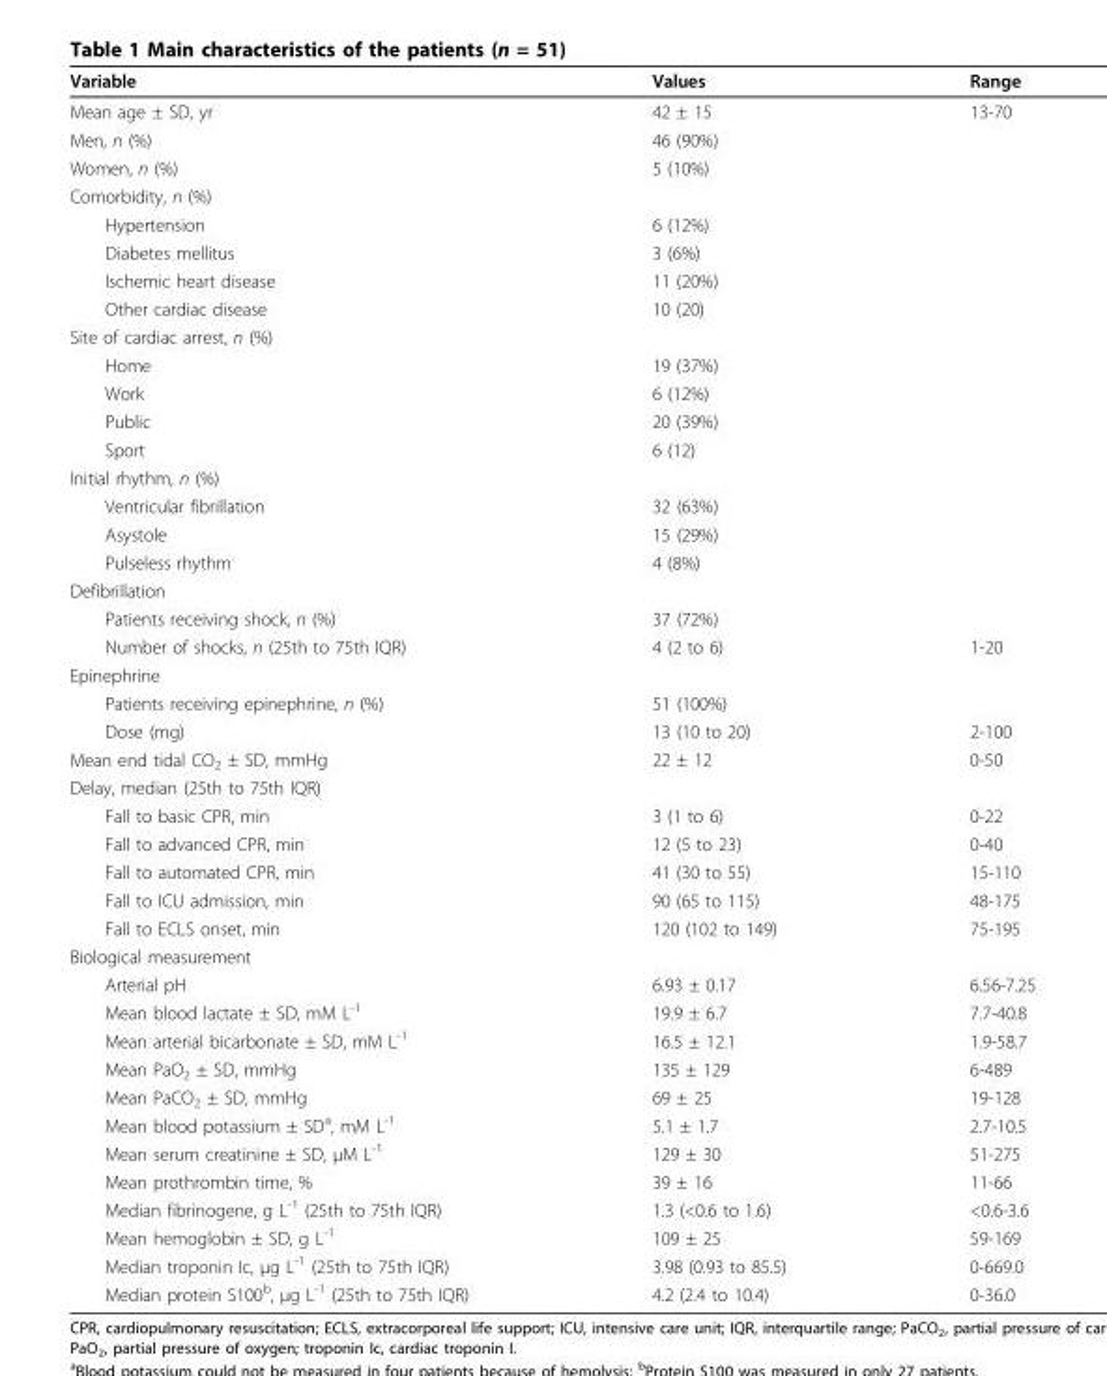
<table><thead><tr><td>Variable</td><td>Values</td><td>Range</td></tr></thead><tbody><tr><td>Mean age ± SD, yr</td><td>42 ± 15</td><td>13-70</td></tr><tr><td>Men, n (%)</td><td>46 (90%)</td><td></td></tr><tr><td>Women, n (%)</td><td>5 (10%)</td><td></td></tr><tr><td colspan="3">Comorbidity, n (%)</td></tr><tr><td>Hypertension</td><td>6 (12%)</td><td></td></tr><tr><td>Diabetes mellitus</td><td>3 (6%)</td><td></td></tr><tr><td>Ischemic heart disease</td><td>11 (20%)</td><td></td></tr><tr><td>Other cardiac disease</td><td>10 (20)</td><td></td></tr><tr><td colspan="3">Site of cardiac arrest, n (%)</td></tr><tr><td>Home</td><td>19 (37%)</td><td></td></tr><tr><td>Work</td><td>6 (12%)</td><td></td></tr><tr><td>Public</td><td>20 (39%)</td><td></td></tr><tr><td>Sport</td><td>6 (12)</td><td></td></tr><tr><td colspan="3">Initial rhythm, n (%)</td></tr><tr><td>Ventricular fibrillation</td><td>32 (63%)</td><td></td></tr><tr><td>Asystole</td><td>15 (29%)</td><td></td></tr><tr><td>Pulseless rhythm</td><td>4 (8%)</td><td></td></tr><tr><td colspan="3">Defibrillation</td></tr><tr><td>Patients receiving shock, n (%)</td><td>37 (72%)</td><td></td></tr><tr><td>Number of shocks, n (25th to 75th IQR)</td><td>4 (2 to 6)</td><td>1-20</td></tr><tr><td colspan="3">Epinephrine</td></tr><tr><td>Patients receiving epinephrine, n (%)</td><td>51 (100%)</td><td></td></tr><tr><td>Dose (mg)</td><td>13 (10 to 20)</td><td>2-100</td></tr><tr><td>Mean end tidal CO<sub>2</sub> ± SD, mmHg</td><td>22 ± 12</td><td>0-50</td></tr><tr><td colspan="3">Delay, median (25th to 75th IQR)</td></tr><tr><td>Fall to basic CPR, min</td><td>3 (1 to 6)</td><td>0-22</td></tr><tr><td>Fall to advanced CPR, min</td><td>12 (5 to 23)</td><td>0-40</td></tr><tr><td>Fall to automated CPR, min</td><td>41 (30 to 55)</td><td>15-110</td></tr><tr><td>Fall to ICU admission, min</td><td>90 (65 to 115)</td><td>48-175</td></tr><tr><td>Fall to ECLS onset, min</td><td>120 (102 to 149)</td><td>75-195</td></tr><tr><td colspan="3">Biological measurement</td></tr><tr><td>Arterial pH</td><td>6.93 ± 0.17</td><td>6.56-7.25</td></tr><tr><td>Mean blood lactate ± SD, mM L<sup>-1</sup></td><td>19.9 ± 6.7</td><td>7.7-40.8</td></tr><tr><td>Mean arterial bicarbonate ± SD, mM L<sup>-1</sup></td><td>16.5 ± 12.1</td><td>1.9-58.7</td></tr><tr><td>Mean PaO<sub>2</sub> ± SD, mmHg</td><td>135 ± 129</td><td>6-489</td></tr><tr><td>Mean PaCO<sub>2</sub> ± SD, mmHg</td><td>69 ± 25</td><td>19-128</td></tr><tr><td>Mean blood potassium ± SD<sup>a</sup>, mM L<sup>-1</sup></td><td>5.1 ± 1.7</td><td>2.7-10.5</td></tr><tr><td>Mean serum creatinine ± SD, μM L<sup>-1</sup></td><td>129 ± 30</td><td>51-275</td></tr><tr><td>Mean prothrombin time, %</td><td>39 ± 16</td><td>11-66</td></tr><tr><td>Median fibrinogene, g L<sup>-1</sup> (25th to 75th IQR)</td><td>1.3 (&lt;0.6 to 1.6)</td><td>&lt;0.6-3.6</td></tr><tr><td>Mean hemoglobin ± SD, g L<sup>-1</sup></td><td>109 ± 25</td><td>59-169</td></tr><tr><td>Median troponin Ic, μg L<sup>-1</sup> (25th to 75th IQR)</td><td>3.98 (0.93 to 85.5)</td><td>0-669.0</td></tr><tr><td>Median protein S100<sup>b</sup>, μg L<sup>-1</sup> (25th to 75th IQR)</td><td>4.2 (2.4 to 10.4)</td><td>0-36.0</td></tr></tbody></table>